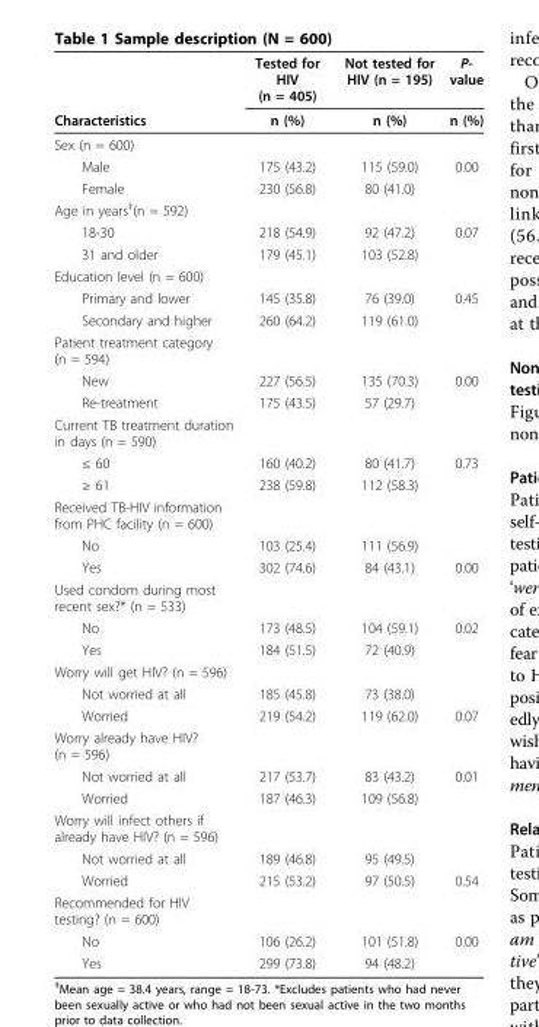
<table><thead><tr><td rowspan="2">Characteristics</td><td rowspan="2">Tested for HIV (n = 405) n (%)</td><td rowspan="2">Not tested for HIV (n = 195) n (%)</td><td rowspan="2">P- value n (%)</td></tr><tr></tr></thead><tbody><tr><td colspan="4">Sex (n = 600)</td></tr><tr><td>Male</td><td>175 (43.2)</td><td>115 (59.0)</td><td>0.00</td></tr><tr><td>Female</td><td>230 (56.8)</td><td>80 (41.0)</td><td></td></tr><tr><td colspan="4">Age in years<sup>‡</sup>(n = 592)</td></tr><tr><td>18-30</td><td>218 (54.9)</td><td>92 (47.2)</td><td>0.07</td></tr><tr><td>31 and older</td><td>179 (45.1)</td><td>103 (52.8)</td><td></td></tr><tr><td colspan="4">Education level (n = 600)</td></tr><tr><td>Primary and lower</td><td>145 (35.8)</td><td>76 (39.0)</td><td>0.45</td></tr><tr><td>Secondary and higher</td><td>260 (64.2)</td><td>119 (61.0)</td><td></td></tr><tr><td colspan="4">Patient treatment category (n = 594)</td></tr><tr><td>New</td><td>227 (56.5)</td><td>135 (70.3)</td><td>0.00</td></tr><tr><td>Re-treatment</td><td>175 (43.5)</td><td>57 (29.7)</td><td></td></tr><tr><td colspan="4">Current TB treatment duration in days (n = 590)</td></tr><tr><td>≤ 60</td><td>160 (40.2)</td><td>80 (41.7)</td><td>0.73</td></tr><tr><td>≥ 61</td><td>238 (59.8)</td><td>112 (58.3)</td><td></td></tr><tr><td colspan="4">Received TB-HIV information from PHC facility (n = 600)</td></tr><tr><td>No</td><td>103 (25.4)</td><td>111 (56.9)</td><td></td></tr><tr><td>Yes</td><td>302 (74.6)</td><td>84 (43.1)</td><td>0.00</td></tr><tr><td colspan="4">Used condom during most recent sex?* (n = 533)</td></tr><tr><td>No</td><td>173 (48.5)</td><td>104 (59.1)</td><td>0.02</td></tr><tr><td>Yes</td><td>184 (51.5)</td><td>72 (40.9)</td><td></td></tr><tr><td colspan="4">Worry will get HIV? (n = 596)</td></tr><tr><td>Not worried at all</td><td>185 (45.8)</td><td>73 (38.0)</td><td></td></tr><tr><td>Worried</td><td>219 (54.2)</td><td>119 (62.0)</td><td>0.07</td></tr><tr><td colspan="4">Worry already have HIV? (n = 596)</td></tr><tr><td>Not worried at all</td><td>217 (53.7)</td><td>83 (43.2)</td><td>0.01</td></tr><tr><td>Worried</td><td>187 (46.3)</td><td>109 (56.8)</td><td></td></tr><tr><td colspan="4">Worry will infect others if already have HIV? (n = 596)</td></tr><tr><td>Not worried at all</td><td>189 (46.8)</td><td>95 (49.5)</td><td></td></tr><tr><td>Worried</td><td>215 (53.2)</td><td>97 (50.5)</td><td>0.54</td></tr><tr><td colspan="4">Recommended for HIV testing? (n = 600)</td></tr><tr><td>No</td><td>106 (26.2)</td><td>101 (51.8)</td><td>0.00</td></tr><tr><td>Yes</td><td>299 (73.8)</td><td>94 (48.2)</td><td></td></tr></tbody></table>